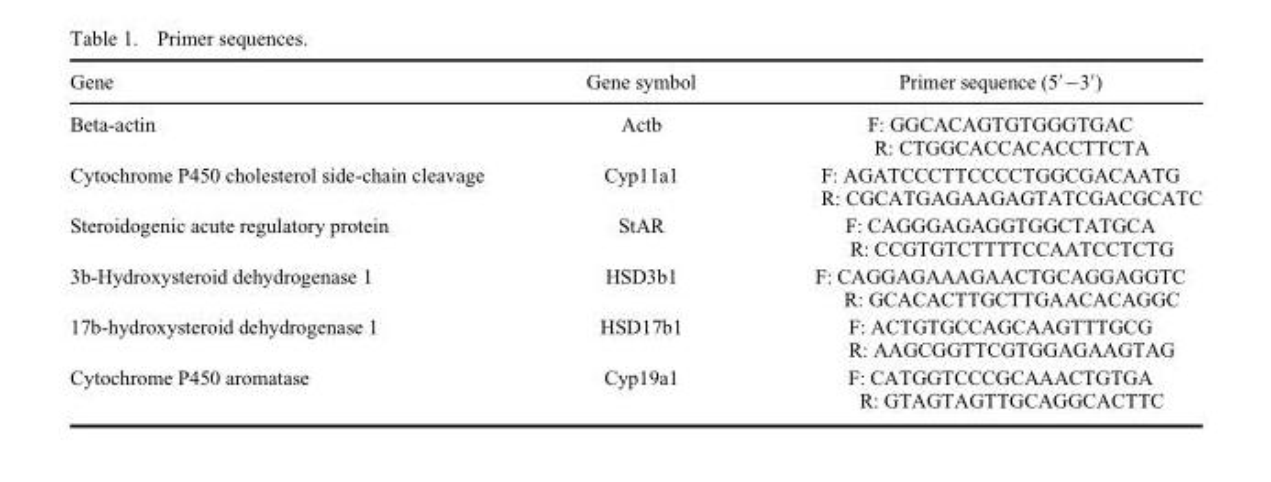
<table><thead><tr><td>Gene</td><td>Gene symbol</td><td>Primer sequence (5′–3′)</td></tr></thead><tbody><tr><td>Beta-actin</td><td>Actb</td><td>F: GGCACAGTGTGGGTGAC R: CTGGCACCACACCTTCTA</td></tr><tr><td>Cytochrome P450 cholesterol side-chain cleavage</td><td>Cyp11a1</td><td>F: AGATCCCTTCCCCTGGCGACAATG R: CGCATGAGAAGAGTATCGACGCATC</td></tr><tr><td>Steroidogenic acute regulatory protein</td><td>StAR</td><td>F: CAGGGAGAGGTGGCTATGCA R: CCGTGTCTTTTCCAATCCTCTG</td></tr><tr><td>3b-Hydroxysteroid dehydrogenase 1</td><td>HSD3b1</td><td>F: CAGGAGAAAGAACTGCAGGAGGTC R: GCACACTTGCTTGAACACAGGC</td></tr><tr><td>17b-hydroxysteroid dehydrogenase 1</td><td>HSD17b1</td><td>F: ACTGTGCCAGCAAGTTTGCG R: AAGCGGTTCGTGGAGAAGTAG</td></tr><tr><td>Cytochrome P450 aromatase</td><td>Cyp19a1</td><td>F: CATGGTCCCGCAAACTGTGA R: GTAGTAGTTGCAGGCACTTC</td></tr></tbody></table>